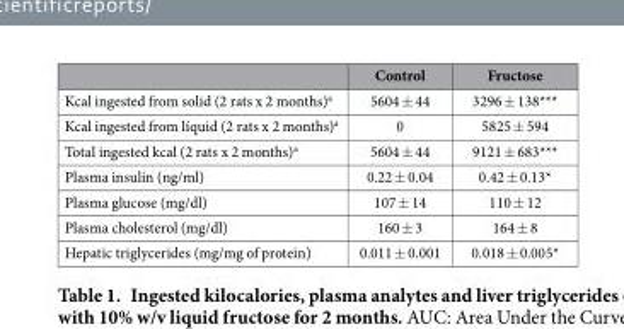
<table><thead><tr><td></td><td>Control</td><td>Fructose</td></tr></thead><tbody><tr><td>Kcal ingested from solid (2 rats x 2 months)<sup>a</sup></td><td>5604 ± 44</td><td>3296 ± 138***</td></tr><tr><td>Kcal ingested from líquid (2 rats x 2 months)<sup>a</sup></td><td>0</td><td>5825 ± 594</td></tr><tr><td>Total ingested kcal (2 rats x 2 months)<sup>a</sup></td><td>5604 ± 44</td><td>9121 ± 683***</td></tr><tr><td>Plasma insulin (ng/ml)</td><td>0.22 ± 0.04</td><td>0.42 ± 0.13*</td></tr><tr><td>Plasma glucose (mg/dl)</td><td>107 ± 14</td><td>110 ± 12</td></tr><tr><td>Plasma cholesterol (mg/dl)</td><td>160 ± 3</td><td>164 ± 8</td></tr><tr><td>Hepatic triglycerides (mg/mg of protein)</td><td>0.011 ± 0.001</td><td>0.018 ± 0.005*</td></tr></tbody></table>